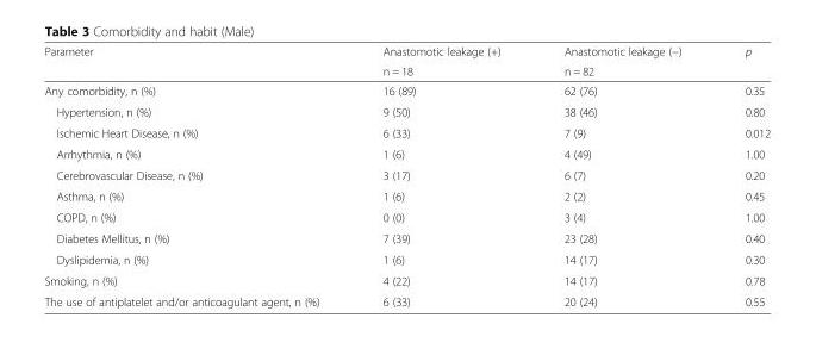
<table><thead><tr><td rowspan="2">Parameter</td><td rowspan="2">Anastomotic leakage (+) n = 18</td><td rowspan="2">Anastomotic leakage (−) n = 82</td><td rowspan="2">p</td></tr><tr></tr></thead><tbody><tr><td>Any comorbidity, n (%)</td><td>16 (89)</td><td>62 (76)</td><td>0.35</td></tr><tr><td>Hypertension, n (%)</td><td>9 (50)</td><td>38 (46)</td><td>0.80</td></tr><tr><td>Ischemic Heart Disease, n (%)</td><td>6 (33)</td><td>7 (9)</td><td>0.012</td></tr><tr><td>Arrhythmia, n (%)</td><td>1 (6)</td><td>4 (49)</td><td>1.00</td></tr><tr><td>Cerebrovascular Disease, n (%)</td><td>3 (17)</td><td>6 (7)</td><td>0.20</td></tr><tr><td>Asthma, n (%)</td><td>1 (6)</td><td>2 (2)</td><td>0.45</td></tr><tr><td>COPD, n (%)</td><td>0 (0)</td><td>3 (4)</td><td>1.00</td></tr><tr><td>Diabetes Mellitus, n (%)</td><td>7 (39)</td><td>23 (28)</td><td>0.40</td></tr><tr><td>Dyslipidemia, n (%)</td><td>1 (6)</td><td>14 (17)</td><td>0.30</td></tr><tr><td>Smoking, n (%)</td><td>4 (22)</td><td>14 (17)</td><td>0.78</td></tr><tr><td>The use of antiplatelet and/or anticoagulant agent, n (%)</td><td>6 (33)</td><td>20 (24)</td><td>0.55</td></tr></tbody></table>